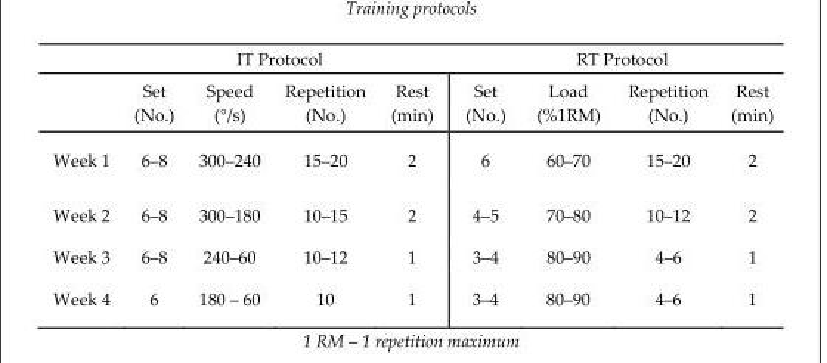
<table><thead><tr><td colspan="5">IT Protocol</td><td colspan="4">RT Protocol</td></tr><tr><td></td><td>Set (No.)</td><td>Speed (°/s)</td><td>Repetition (No.)</td><td>Rest (min)</td><td>Set (No.)</td><td>Load (%1RM)</td><td>Repetition (No.)</td><td>Rest (min)</td></tr></thead><tbody><tr><td>Week 1</td><td>6–8</td><td>300–240</td><td>15–20</td><td>2</td><td>6</td><td>60–70</td><td>15–20</td><td>2</td></tr><tr><td>Week 2</td><td>6–8</td><td>300–180</td><td>10–15</td><td>2</td><td>4–5</td><td>70–80</td><td>10–12</td><td>2</td></tr><tr><td>Week 3</td><td>6–8</td><td>240–60</td><td>10–12</td><td>1</td><td>3–4</td><td>80–90</td><td>4–6</td><td>1</td></tr><tr><td>Week 4</td><td>6</td><td>180 – 60</td><td>10</td><td>1</td><td>3–4</td><td>80–90</td><td>4–6</td><td>1</td></tr></tbody></table>